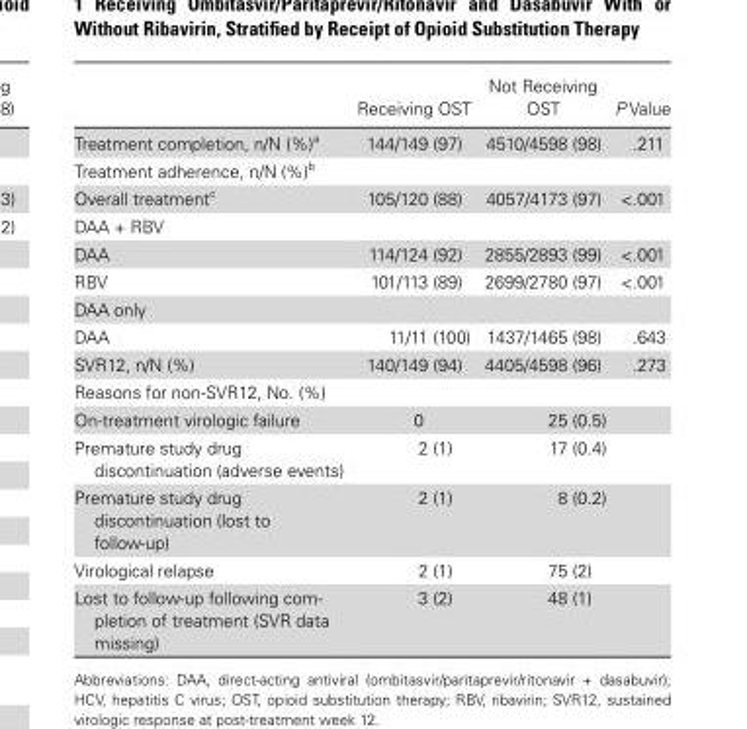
<table><thead><tr><td></td><td>Receiving OST</td><td>Not Receiving OST</td><td>P Value</td></tr></thead><tbody><tr><td>Treatment completion, n/N (%)<sup>a</sup></td><td>144/149 (97)</td><td>4510/4598 (98)</td><td>.211</td></tr><tr><td colspan="4">Treatment adherence, n/N (%)<sup>b</sup></td></tr><tr><td>Overall treatment<sup>c</sup></td><td>105/120 (88)</td><td>4057/4173 (97)</td><td>&lt;.001</td></tr><tr><td colspan="4">DAA + RBV</td></tr><tr><td>DAA</td><td>114/124 (92)</td><td>2855/2893 (99)</td><td>&lt;.001</td></tr><tr><td>RBV</td><td>101/113 (89)</td><td>2699/2780 (97)</td><td>&lt;.001</td></tr><tr><td colspan="4">DAA only</td></tr><tr><td>DAA</td><td>11/11 (100)</td><td>1437/1465 (98)</td><td>.643</td></tr><tr><td>SVR12, n/N (%)</td><td>140/149 (94)</td><td>4405/4598 (96)</td><td>.273</td></tr><tr><td colspan="4">Reasons for non-SVR12, No. (%)</td></tr><tr><td>On-treatment virologic failure</td><td>0</td><td>25 (0.5)</td><td></td></tr><tr><td>Premature study drug discontinuation (adverse events)</td><td>2 (1)</td><td>17 (0.4)</td><td></td></tr><tr><td>Premature study drug discontinuation (lost to follow-up)</td><td>2 (1)</td><td>8 (0.2)</td><td></td></tr><tr><td>Virological relapse</td><td>2 (1)</td><td>75 (2)</td><td></td></tr><tr><td>Lost to follow-up following com- pletion of treatment (SVR data missing)</td><td>3 (2)</td><td>48 (1)</td><td></td></tr></tbody></table>